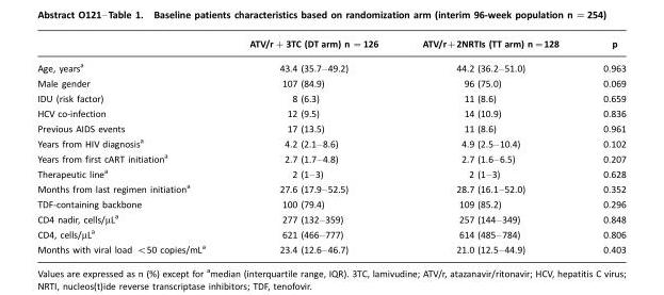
<table><thead><tr><td></td><td>ATV/r+3TC (DT arm) n =126</td><td>ATV/r+2NRTIs (TT arm) n=128</td><td>p</td></tr></thead><tbody><tr><td>Age, yearsa</td><td>43.4 (35.7–49.2)</td><td>44.2 (36.2–51.0)</td><td>0.963</td></tr><tr><td>Male gender</td><td>107 (84.9)</td><td>96 (75.0)</td><td>0.069</td></tr><tr><td>IDU (risk factor)</td><td>8 (6.3)</td><td>11 (8.6)</td><td>0.659</td></tr><tr><td>HCV co-infection</td><td>12 (9.5)</td><td>14 (10.9)</td><td>0.836</td></tr><tr><td>Previous AIDS events</td><td>17 (13.5)</td><td>11 (8.6)</td><td>0.961</td></tr><tr><td>Years from HIV diagnosisa</td><td>4.2 (2.1–8.6)</td><td>4.9 (2.5–10.4)</td><td>0.102</td></tr><tr><td>Years from first cART initiationa</td><td>2.7 (1.7–4.8)</td><td>2.7 (1.6–6.5)</td><td>0.207</td></tr><tr><td>Therapeutic linea</td><td>2 (1–3)</td><td>2 (1–3)</td><td>0.628</td></tr><tr><td>Months from last regimen initiationa</td><td>27.6 (17.9–52.5)</td><td>28.7 (16.1–52.0)</td><td>0.352</td></tr><tr><td>TDF-containing backbone</td><td>100 (79.4)</td><td>109 (85.2)</td><td>0.296</td></tr><tr><td>CD4 nadir, cells/µLa</td><td>277 (132–359)</td><td>257 (144–349)</td><td>0.848</td></tr><tr><td>CD4, cells/µLa</td><td>621 (466–777)</td><td>614 (485–784)</td><td>0.806</td></tr><tr><td>Months with viral load &lt;50 copies/mLa</td><td>23.4 (12.6–46.7)</td><td>21.0 (12.5–44.9)</td><td>0.403</td></tr></tbody></table>